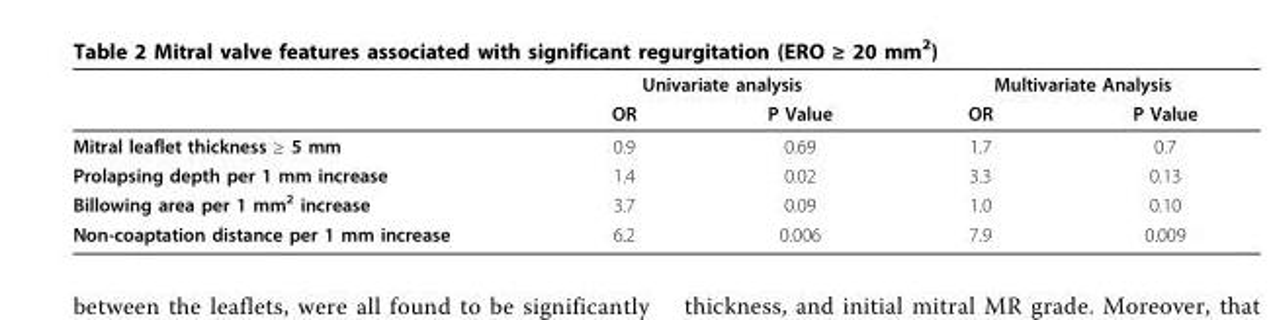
<table><thead><tr><td rowspan="2"></td><td colspan="2">Univariate analysis</td><td colspan="2">Multivariate Analysis</td></tr><tr><td>OR</td><td>P Value</td><td>OR</td><td>P Value</td></tr></thead><tbody><tr><td>Mitral leaflet thickness ≥ 5 mm</td><td>0.9</td><td>0.69</td><td>1.7</td><td>0.7</td></tr><tr><td>Prolapsing depth per 1 mm increase</td><td>1.4</td><td>0.02</td><td>3.3</td><td>0.13</td></tr><tr><td>Billowing area per 1 mm<sup>2</sup> increase</td><td>3.7</td><td>0.09</td><td>1.0</td><td>0.10</td></tr><tr><td>Non-coaptation distance per 1 mm increase</td><td>6.2</td><td>0.006</td><td>7.9</td><td>0.009</td></tr></tbody></table>